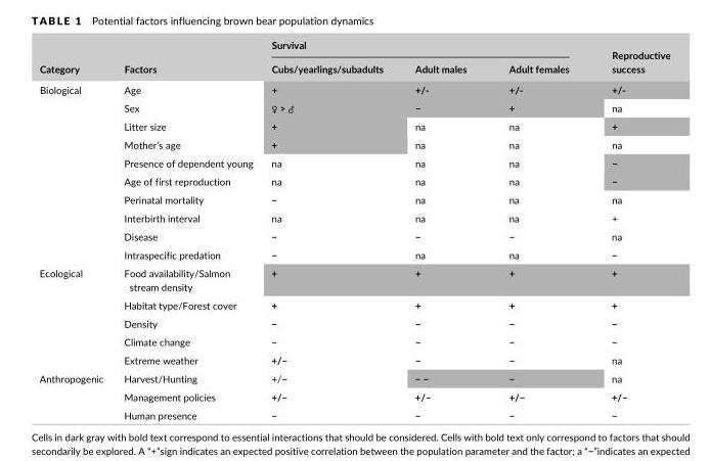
<table><thead><tr><td rowspan="2">Category</td><td rowspan="2">Factors</td><td colspan="3">Survival</td><td rowspan="2">Reproductive success</td></tr><tr><td>Cubs/yearlings/subadults</td><td>Adult males</td><td>Adult females</td></tr></thead><tbody><tr><td rowspan="10">Biological</td><td>Age</td><td>+</td><td>+/-</td><td>+/-</td><td>+/-</td></tr><tr><td>Sex</td><td>♀ &gt; ♂</td><td>−</td><td>+</td><td>na</td></tr><tr><td>Litter size</td><td>+</td><td>na</td><td>na</td><td>+</td></tr><tr><td>Mother’s age</td><td>+</td><td>na</td><td>na</td><td>na</td></tr><tr><td>Presence of dependent young</td><td>na</td><td>na</td><td>na</td><td>−</td></tr><tr><td>Age of first reproduction</td><td>na</td><td>na</td><td>na</td><td>−</td></tr><tr><td>Perinatal mortality</td><td>−</td><td>na</td><td>na</td><td>na</td></tr><tr><td>Interbirth interval</td><td>na</td><td>na</td><td>na</td><td>+</td></tr><tr><td>Disease</td><td>−</td><td>−</td><td>−</td><td>na</td></tr><tr><td>Intraspecific predation</td><td>−</td><td>na</td><td>na</td><td>−</td></tr><tr><td rowspan="5">Ecological</td><td>Food availability/Salmon stream density</td><td>+</td><td>+</td><td>+</td><td>+</td></tr><tr><td>Habitat type/Forest cover</td><td>+</td><td>+</td><td>+</td><td>+</td></tr><tr><td>Density</td><td>−</td><td>−</td><td>−</td><td>−</td></tr><tr><td>Climate change</td><td>−</td><td>−</td><td>−</td><td>−</td></tr><tr><td>Extreme weather</td><td>+/−</td><td>−</td><td>−</td><td>na</td></tr><tr><td rowspan="3">Anthropogenic</td><td>Harvest/Hunting</td><td>+/−</td><td>− −</td><td>−</td><td>na</td></tr><tr><td>Management policies</td><td>+/−</td><td>+/−</td><td>+/−</td><td>+/−</td></tr><tr><td>Human presence</td><td>−</td><td>−</td><td>−</td><td>−</td></tr></tbody></table>